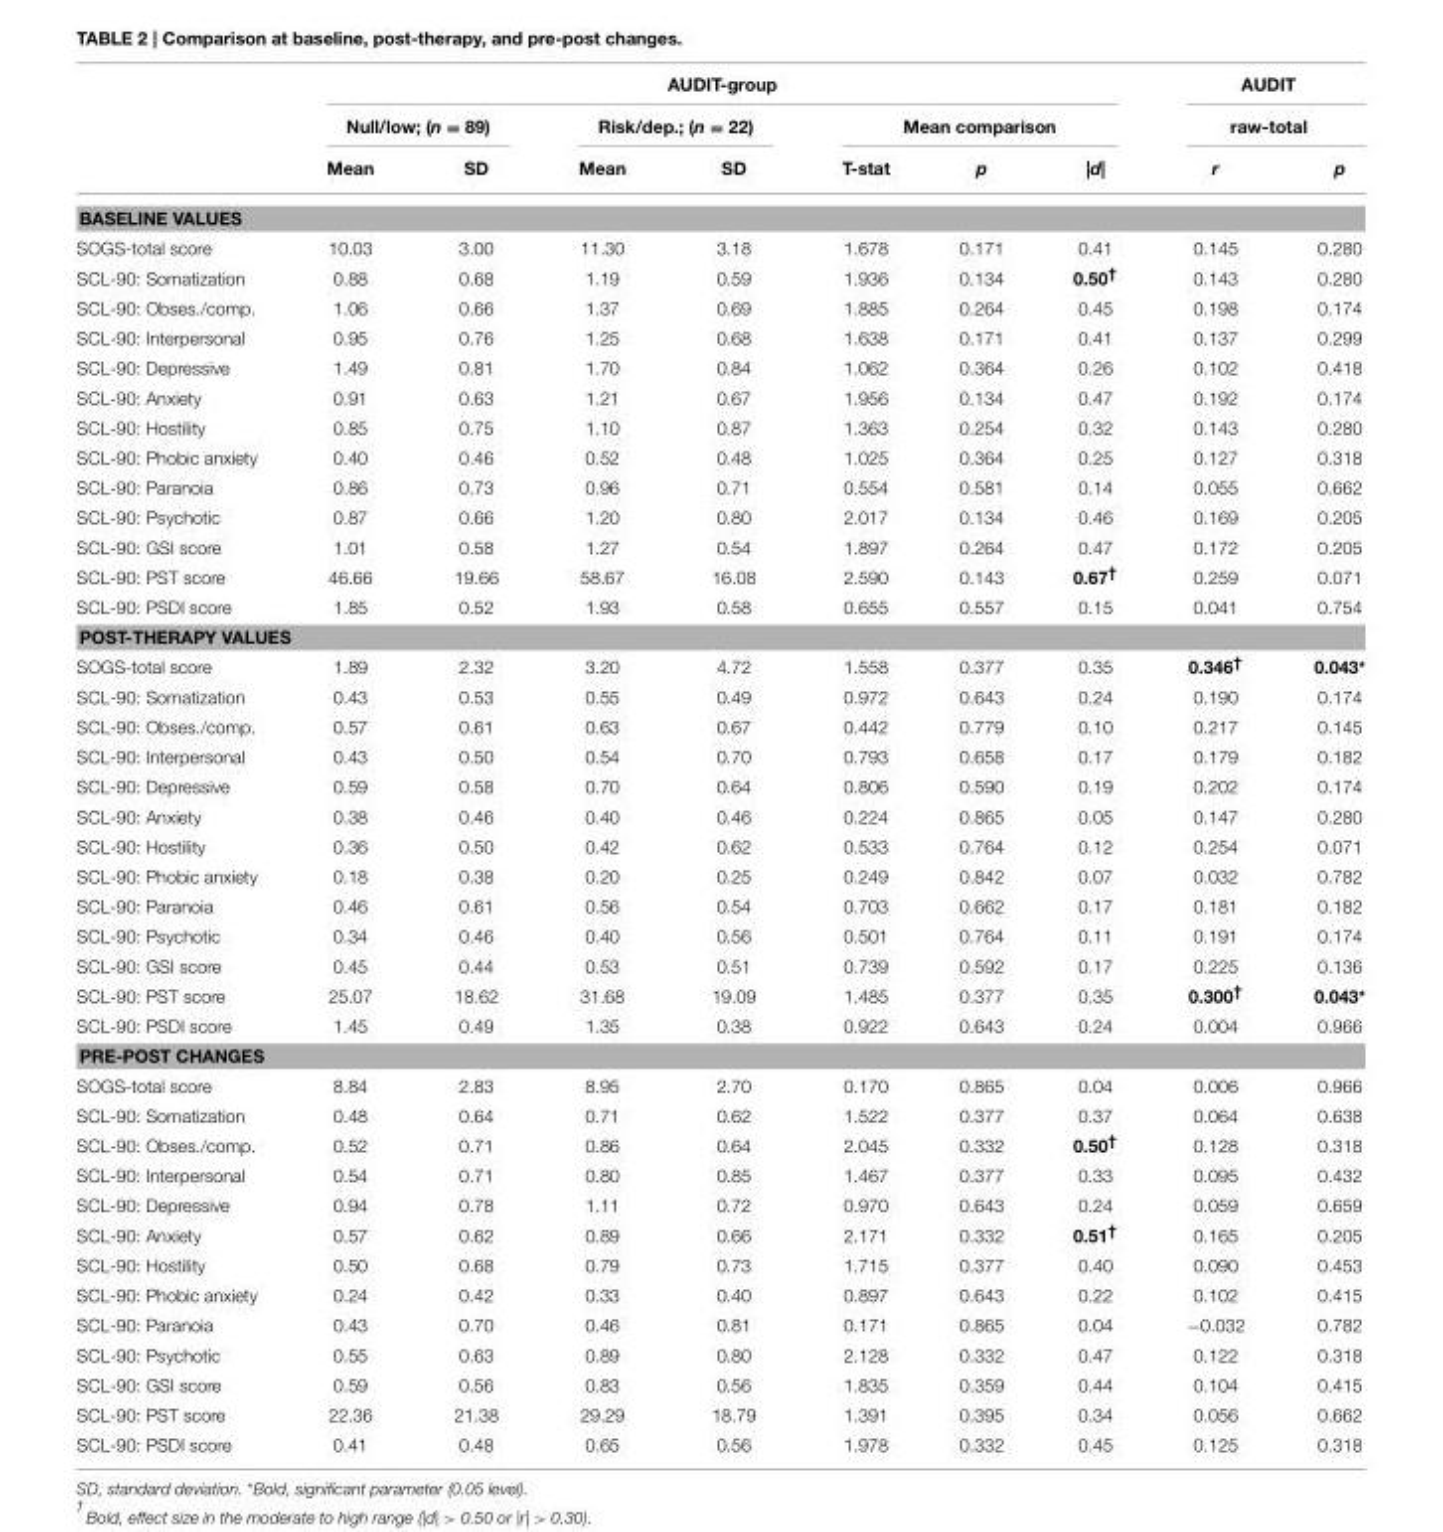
<table><thead><tr><td rowspan="3"></td><td colspan="7">AUDIT-group</td><td rowspan="2" colspan="2">AUDIT raw-total</td></tr><tr><td colspan="2">Null/low; (n = 89)</td><td colspan="2">Risk/dep.; (n = 22)</td><td colspan="3">Mean comparison</td></tr><tr><td>Mean</td><td>SD</td><td>Mean</td><td>SD</td><td>T-stat</td><td>p</td><td>|d|</td><td>r</td><td>p</td></tr></thead><tbody><tr><td colspan="10">BASELINE VALUES</td></tr><tr><td>SOGS-total score</td><td>10.03</td><td>3.00</td><td>11.30</td><td>3.18</td><td>1.678</td><td>0.171</td><td>0.41</td><td>0.145</td><td>0.280</td></tr><tr><td>SCL-90: Somatization</td><td>0.88</td><td>0.68</td><td>1.19</td><td>0.59</td><td>1.936</td><td>0.134</td><td>0.50<sup>†</sup></td><td>0.143</td><td>0.280</td></tr><tr><td>SCL-90: Obses./comp.</td><td>1.06</td><td>0.66</td><td>1.37</td><td>0.69</td><td>1.885</td><td>0.264</td><td>0.45</td><td>0.198</td><td>0.174</td></tr><tr><td>SCL-90: Interpersonal</td><td>0.95</td><td>0.76</td><td>1.25</td><td>0.68</td><td>1.638</td><td>0.171</td><td>0.41</td><td>0.137</td><td>0.299</td></tr><tr><td>SCL-90: Depressive</td><td>1.49</td><td>0.81</td><td>1.70</td><td>0.84</td><td>1.062</td><td>0.364</td><td>0.26</td><td>0.102</td><td>0.418</td></tr><tr><td>SCL-90: Anxiety</td><td>0.91</td><td>0.63</td><td>1.21</td><td>0.67</td><td>1.956</td><td>0.134</td><td>0.47</td><td>0.192</td><td>0.174</td></tr><tr><td>SCL-90: Hostility</td><td>0.85</td><td>0.75</td><td>1.10</td><td>0.87</td><td>1.363</td><td>0.254</td><td>0.32</td><td>0.143</td><td>0.280</td></tr><tr><td>SCL-90: Phobic anxiety</td><td>0.40</td><td>0.46</td><td>0.52</td><td>0.48</td><td>1.025</td><td>0.364</td><td>0.25</td><td>0.127</td><td>0.318</td></tr><tr><td>SCL-90: Paranoia</td><td>0.86</td><td>0.73</td><td>0.96</td><td>0.71</td><td>0.554</td><td>0.581</td><td>0.14</td><td>0.055</td><td>0.662</td></tr><tr><td>SCL-90: Psychotic</td><td>0.87</td><td>0.66</td><td>1.20</td><td>0.80</td><td>2.017</td><td>0.134</td><td>0.46</td><td>0.169</td><td>0.205</td></tr><tr><td>SCL-90: GSI score</td><td>1.01</td><td>0.58</td><td>1.27</td><td>0.54</td><td>1.897</td><td>0.264</td><td>0.47</td><td>0.172</td><td>0.205</td></tr><tr><td>SCL-90: PST score</td><td>46.66</td><td>19.66</td><td>58.67</td><td>16.08</td><td>2.590</td><td>0.143</td><td>0.67<sup>†</sup></td><td>0.259</td><td>0.071</td></tr><tr><td>SCL-90: PSDI score</td><td>1.85</td><td>0.52</td><td>1.93</td><td>0.58</td><td>0.655</td><td>0.557</td><td>0.15</td><td>0.041</td><td>0.754</td></tr><tr><td colspan="10">POST-THERAPY VALUES</td></tr><tr><td>SOGS-total score</td><td>1.89</td><td>2.32</td><td>3.20</td><td>4.72</td><td>1.558</td><td>0.377</td><td>0.35</td><td>0.346<sup>†</sup></td><td>0.043*</td></tr><tr><td>SCL-90: Somatization</td><td>0.43</td><td>0.53</td><td>0.55</td><td>0.49</td><td>0.972</td><td>0.643</td><td>0.24</td><td>0.190</td><td>0.174</td></tr><tr><td>SCL-90: Obses./comp.</td><td>0.57</td><td>0.61</td><td>0.63</td><td>0.67</td><td>0.442</td><td>0.779</td><td>0.10</td><td>0.217</td><td>0.145</td></tr><tr><td>SCL-90: Interpersonal</td><td>0.43</td><td>0.50</td><td>0.54</td><td>0.70</td><td>0.793</td><td>0.658</td><td>0.17</td><td>0.179</td><td>0.182</td></tr><tr><td>SCL-90: Depressive</td><td>0.59</td><td>0.58</td><td>0.70</td><td>0.64</td><td>0.806</td><td>0.590</td><td>0.19</td><td>0.202</td><td>0.174</td></tr><tr><td>SCL-90: Anxiety</td><td>0.38</td><td>0.46</td><td>0.40</td><td>0.46</td><td>0.224</td><td>0.865</td><td>0.05</td><td>0.147</td><td>0.280</td></tr><tr><td>SCL-90: Hostility</td><td>0.36</td><td>0.50</td><td>0.42</td><td>0.62</td><td>0.533</td><td>0.764</td><td>0.12</td><td>0.254</td><td>0.071</td></tr><tr><td>SCL-90: Phobic anxiety</td><td>0.18</td><td>0.38</td><td>0.20</td><td>0.25</td><td>0.249</td><td>0.842</td><td>0.07</td><td>0.032</td><td>0.782</td></tr><tr><td>SCL-90: Paranoia</td><td>0.46</td><td>0.61</td><td>0.56</td><td>0.54</td><td>0.703</td><td>0.662</td><td>0.17</td><td>0.181</td><td>0.182</td></tr><tr><td>SCL-90: Psychotic</td><td>0.34</td><td>0.46</td><td>0.40</td><td>0.56</td><td>0.501</td><td>0.764</td><td>0.11</td><td>0.191</td><td>0.174</td></tr><tr><td>SCL-90: GSI score</td><td>0.45</td><td>0.44</td><td>0.53</td><td>0.51</td><td>0.739</td><td>0.592</td><td>0.17</td><td>0.225</td><td>0.136</td></tr><tr><td>SCL-90: PST score</td><td>25.07</td><td>18.62</td><td>31.68</td><td>19.09</td><td>1.485</td><td>0.377</td><td>0.35</td><td>0.300<sup>†</sup></td><td>0.043*</td></tr><tr><td>SCL-90: PSDI score</td><td>1.45</td><td>0.49</td><td>1.35</td><td>0.38</td><td>0.922</td><td>0.643</td><td>0.24</td><td>0.004</td><td>0.966</td></tr><tr><td colspan="10">PRE-POST CHANGES</td></tr><tr><td>SOGS-total score</td><td>8.84</td><td>2.83</td><td>8.95</td><td>2.70</td><td>0.170</td><td>0.865</td><td>0.04</td><td>0.006</td><td>0.966</td></tr><tr><td>SCL-90: Somatization</td><td>0.48</td><td>0.64</td><td>0.71</td><td>0.62</td><td>1.522</td><td>0.377</td><td>0.37</td><td>0.064</td><td>0.638</td></tr><tr><td>SCL-90: Obses./comp.</td><td>0.52</td><td>0.71</td><td>0.86</td><td>0.64</td><td>2.045</td><td>0.332</td><td>0.50<sup>†</sup></td><td>0.128</td><td>0.318</td></tr><tr><td>SCL-90: Interpersonal</td><td>0.54</td><td>0.71</td><td>0.80</td><td>0.85</td><td>1.467</td><td>0.377</td><td>0.33</td><td>0.095</td><td>0.432</td></tr><tr><td>SCL-90: Depressive</td><td>0.94</td><td>0.78</td><td>1.11</td><td>0.72</td><td>0.970</td><td>0.643</td><td>0.24</td><td>0.059</td><td>0.659</td></tr><tr><td>SCL-90: Anxiety</td><td>0.57</td><td>0.62</td><td>0.89</td><td>0.66</td><td>2.171</td><td>0.332</td><td>0.51<sup>†</sup></td><td>0.165</td><td>0.205</td></tr><tr><td>SCL-90: Hostility</td><td>0.50</td><td>0.68</td><td>0.79</td><td>0.73</td><td>1.715</td><td>0.377</td><td>0.40</td><td>0.090</td><td>0.453</td></tr><tr><td>SCL-90: Phobic anxiety</td><td>0.24</td><td>0.42</td><td>0.33</td><td>0.40</td><td>0.897</td><td>0.643</td><td>0.22</td><td>0.102</td><td>0.415</td></tr><tr><td>SCL-90: Paranoia</td><td>0.43</td><td>0.70</td><td>0.46</td><td>0.81</td><td>0.171</td><td>0.865</td><td>0.04</td><td>−0.032</td><td>0.782</td></tr><tr><td>SCL-90: Psychotic</td><td>0.55</td><td>0.63</td><td>0.89</td><td>0.80</td><td>2.128</td><td>0.332</td><td>0.47</td><td>0.122</td><td>0.318</td></tr><tr><td>SCL-90: GSI score</td><td>0.59</td><td>0.56</td><td>0.83</td><td>0.56</td><td>1.835</td><td>0.359</td><td>0.44</td><td>0.104</td><td>0.415</td></tr><tr><td>SCL-90: PST score</td><td>22.36</td><td>21.38</td><td>29.29</td><td>18.79</td><td>1.391</td><td>0.395</td><td>0.34</td><td>0.056</td><td>0.662</td></tr><tr><td>SCL-90: PSDI score</td><td>0.41</td><td>0.48</td><td>0.65</td><td>0.56</td><td>1.978</td><td>0.332</td><td>0.45</td><td>0.125</td><td>0.318</td></tr></tbody></table>